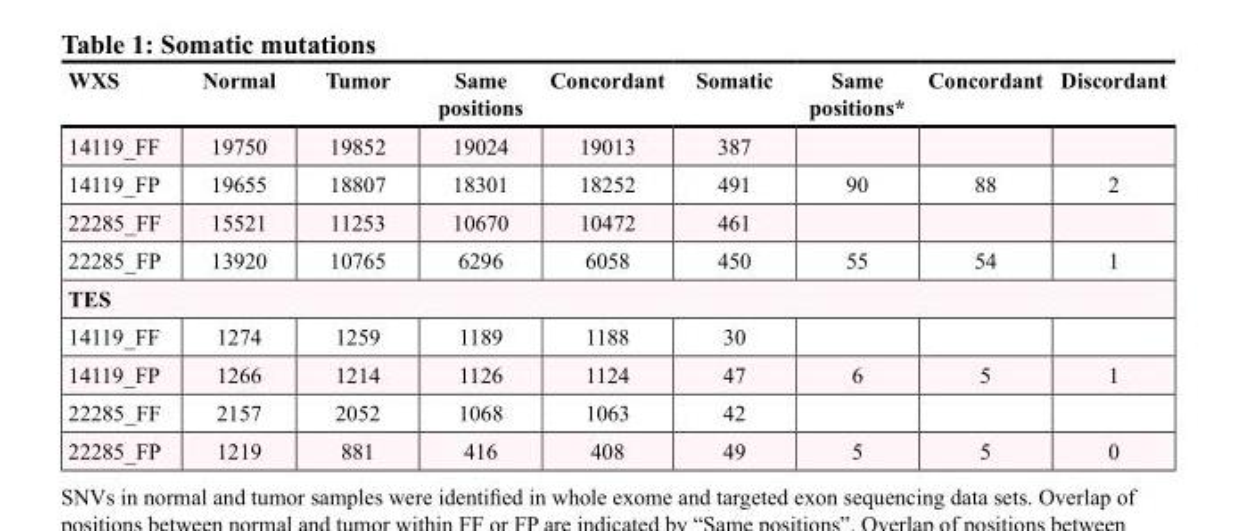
<table><thead><tr><td>WXS</td><td>Normal</td><td>Tumor</td><td>Same positions</td><td>Concordant</td><td>Somatic</td><td>Same positions*</td><td>Concordant</td><td>Discordant</td></tr></thead><tbody><tr><td>14119_FF</td><td>19750</td><td>19852</td><td>19024</td><td>19013</td><td>387</td><td></td><td></td><td></td></tr><tr><td>14119_FP</td><td>19655</td><td>18807</td><td>18301</td><td>18252</td><td>491</td><td>90</td><td>88</td><td>2</td></tr><tr><td>22285_FF</td><td>15521</td><td>11253</td><td>10670</td><td>10472</td><td>461</td><td></td><td></td><td></td></tr><tr><td>22285_FP</td><td>13920</td><td>10765</td><td>6296</td><td>6058</td><td>450</td><td>55</td><td>54</td><td>1</td></tr><tr><td colspan="9">TES</td></tr><tr><td>14119_FF</td><td>1274</td><td>1259</td><td>1189</td><td>1188</td><td>30</td><td></td><td></td><td></td></tr><tr><td>14119_FP</td><td>1266</td><td>1214</td><td>1126</td><td>1124</td><td>47</td><td>6</td><td>5</td><td>1</td></tr><tr><td>22285_FF</td><td>2157</td><td>2052</td><td>1068</td><td>1063</td><td>42</td><td></td><td></td><td></td></tr><tr><td>22285_FP</td><td>1219</td><td>881</td><td>416</td><td>408</td><td>49</td><td>5</td><td>5</td><td>0</td></tr></tbody></table>